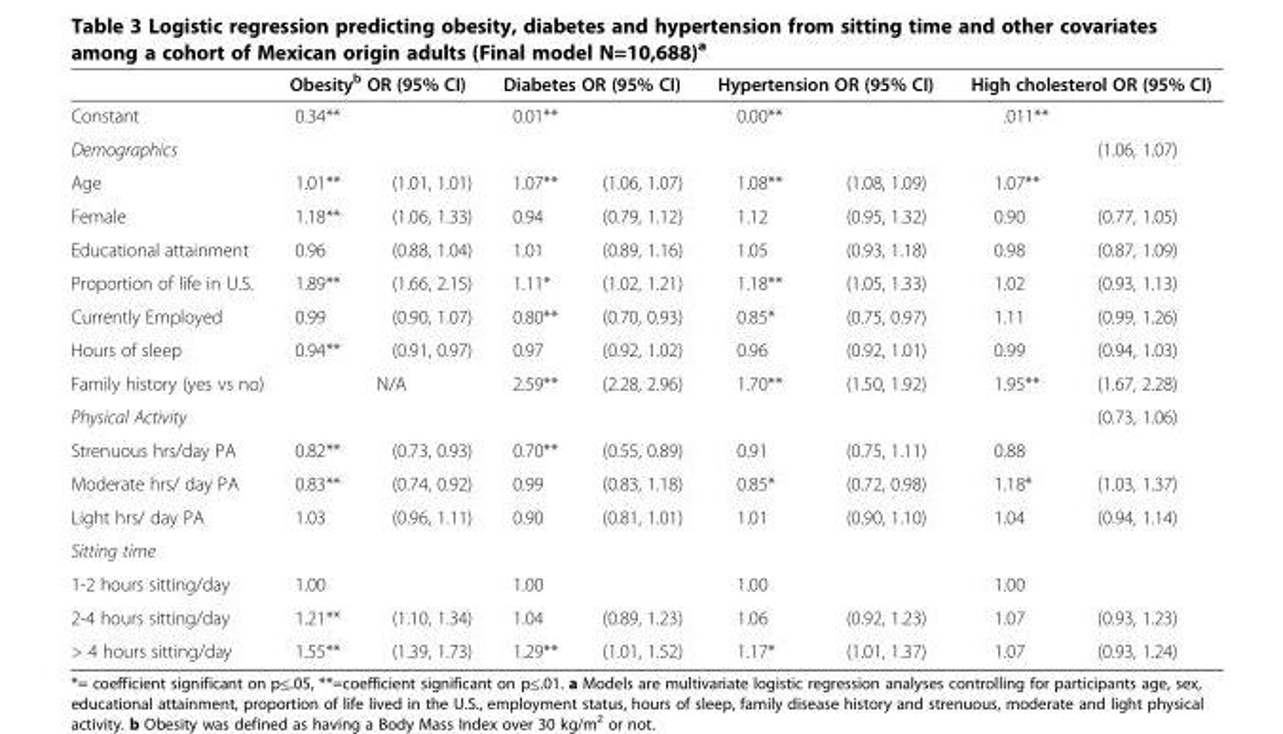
<table><thead><tr><td rowspan="2">Constant</td><td colspan="2">Obesity<sup>b</sup> OR (95% CI)</td><td colspan="2">Diabetes OR (95% CI)</td><td colspan="2">Hypertension OR (95% CI)</td><td colspan="2">High cholesterol OR (95% CI)</td></tr><tr><td>0.34**</td><td></td><td>0.01**</td><td></td><td>0.00**</td><td></td><td>.011**</td><td></td></tr></thead><tbody><tr><td colspan="8">Demographics</td><td rowspan="2">(1.06, 1.07)</td></tr><tr><td>Age</td><td>1.01**</td><td>(1.01, 1.01)</td><td>1.07**</td><td>(1.06, 1.07)</td><td>1.08**</td><td>(1.08, 1.09)</td><td>1.07**</td></tr><tr><td>Female</td><td>1.18**</td><td>(1.06, 1.33)</td><td>0.94</td><td>(0.79, 1.12)</td><td>1.12</td><td>(0.95, 1.32)</td><td>0.90</td><td>(0.77, 1.05)</td></tr><tr><td>Educational attainment</td><td>0.96</td><td>(0.88, 1.04)</td><td>1.01</td><td>(0.89, 1.16)</td><td>1.05</td><td>(0.93, 1.18)</td><td>0.98</td><td>(0.87, 1.09)</td></tr><tr><td>Proportion of life in U.S.</td><td>1.89**</td><td>(1.66, 2.15)</td><td>1.11*</td><td>(1.02, 1.21)</td><td>1.18**</td><td>(1.05, 1.33)</td><td>1.02</td><td>(0.93, 1.13)</td></tr><tr><td>Currently Employed</td><td>0.99</td><td>(0.90, 1.07)</td><td>0.80**</td><td>(0.70, 0.93)</td><td>0.85*</td><td>(0.75, 0.97)</td><td>1.11</td><td>(0.99, 1.26)</td></tr><tr><td>Hours of sleep</td><td>0.94**</td><td>(0.91, 0.97)</td><td>0.97</td><td>(0.92, 1.02)</td><td>0.96</td><td>(0.92, 1.01)</td><td>0.99</td><td>(0.94, 1.03)</td></tr><tr><td>Family history (yes vs no)</td><td></td><td>N/A</td><td>2.59**</td><td>(2.28, 2.96)</td><td>1.70**</td><td>(1.50, 1.92)</td><td>1.95**</td><td>(1.67, 2.28)</td></tr><tr><td colspan="8">Physical Activity</td><td rowspan="2">(0.73, 1.06)</td></tr><tr><td>Strenuous hrs/day PA</td><td>0.82**</td><td>(0.73, 0.93)</td><td>0.70**</td><td>(0.55, 0.89)</td><td>0.91</td><td>(0.75, 1.11)</td><td>0.88</td></tr><tr><td>Moderate hrs/ day PA</td><td>0.83**</td><td>(0.74, 0.92)</td><td>0.99</td><td>(0.83, 1.18)</td><td>0.85*</td><td>(0.72, 0.98)</td><td>1.18*</td><td>(1.03, 1.37)</td></tr><tr><td>Light hrs/ day PA</td><td>1.03</td><td>(0.96, 1.11)</td><td>0.90</td><td>(0.81, 1.01)</td><td>1.01</td><td>(0.90, 1.10)</td><td>1.04</td><td>(0.94, 1.14)</td></tr><tr><td colspan="8">Sitting time</td><td rowspan="2"></td></tr><tr><td>1-2 hours sitting/day</td><td>1.00</td><td></td><td>1.00</td><td></td><td>1.00</td><td></td><td>1.00</td></tr><tr><td>2-4 hours sitting/day</td><td>1.21**</td><td>(1.10, 1.34)</td><td>1.04</td><td>(0.89, 1.23)</td><td>1.06</td><td>(0.92, 1.23)</td><td>1.07</td><td>(0.93, 1.23)</td></tr><tr><td>&gt; 4 hours sitting/day</td><td>1.55**</td><td>(1.39, 1.73)</td><td>1.29**</td><td>(1.01, 1.52)</td><td>1.17*</td><td>(1.01, 1.37)</td><td>1.07</td><td>(0.93, 1.24)</td></tr></tbody></table>